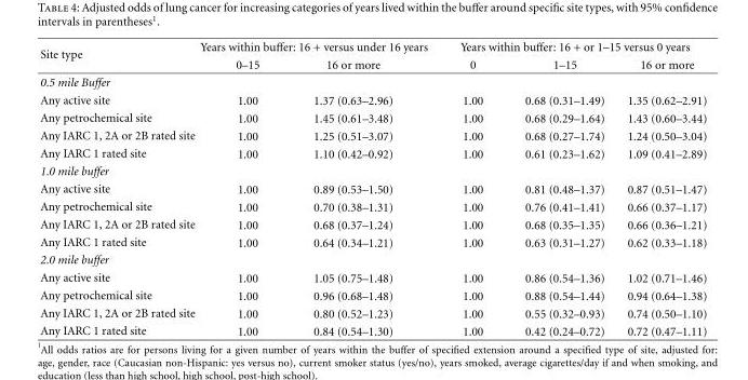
<table><thead><tr><td rowspan="2">Site type</td><td colspan="2">Years within buffer: 16 + versus under 16 years</td><td colspan="3">Years within buffer: 16 + or 1–15 versus 0 years</td></tr><tr><td>0–15</td><td>16 or more</td><td>0</td><td>1–15</td><td>16 or more</td></tr></thead><tbody><tr><td colspan="6">0.5 mile Buffer</td></tr><tr><td>Any active site</td><td>1.00</td><td>1.37 (0.63–2.96)</td><td>1.00</td><td>0.68 (0.31–1.49)</td><td>1.35 (0.62–2.91)</td></tr><tr><td>Any petrochemical site</td><td>1.00</td><td>1.45 (0.61–3.48)</td><td>1.00</td><td>0.68 (0.29–1.64)</td><td>1.43 (0.60–3.44)</td></tr><tr><td>Any IARC 1, 2A or 2B rated site</td><td>1.00</td><td>1.25 (0.51–3.07)</td><td>1.00</td><td>0.68 (0.27–1.74)</td><td>1.24 (0.50–3.04)</td></tr><tr><td>Any IARC 1 rated site</td><td>1.00</td><td>1.10 (0.42–0.92)</td><td>1.00</td><td>0.61 (0.23–1.62)</td><td>1.09 (0.41–2.89)</td></tr><tr><td colspan="6">1.0 mile buffer</td></tr><tr><td>Any active site</td><td>1.00</td><td>0.89 (0.53–1.50)</td><td>1.00</td><td>0.81 (0.48–1.37)</td><td>0.87 (0.51–1.47)</td></tr><tr><td>Any petrochemical site</td><td>1.00</td><td>0.70 (0.38–1.31)</td><td>1.00</td><td>0.76 (0.41–1.41)</td><td>0.66 (0.37–1.17)</td></tr><tr><td>Any IARC 1, 2A or 2B rated site</td><td>1.00</td><td>0.68 (0.37–1.24)</td><td>1.00</td><td>0.68 (0.35–1.35)</td><td>0.66 (0.36–1.21)</td></tr><tr><td>Any IARC 1 rated site</td><td>1.00</td><td>0.64 (0.34–1.21)</td><td>1.00</td><td>0.63 (0.31–1.27)</td><td>0.62 (0.33–1.18)</td></tr><tr><td colspan="6">2.0 mile buffer</td></tr><tr><td>Any active site</td><td>1.00</td><td>1.05 (0.75–1.48)</td><td>1.00</td><td>0.86 (0.54–1.36)</td><td>1.02 (0.71–1.46)</td></tr><tr><td>Any petrochemical site</td><td>1.00</td><td>0.96 (0.68–1.48)</td><td>1.00</td><td>0.88 (0.54–1.44)</td><td>0.94 (0.64–1.38)</td></tr><tr><td>Any IARC 1, 2A or 2B rated site</td><td>1.00</td><td>0.80 (0.52–1.23)</td><td>1.00</td><td>0.55 (0.32–0.93)</td><td>0.74 (0.50–1.10)</td></tr><tr><td>Any IARC 1 rated site</td><td>1.00</td><td>0.84 (0.54–1.30)</td><td>1.00</td><td>0.42 (0.24–0.72)</td><td>0.72 (0.47–1.11)</td></tr></tbody></table>